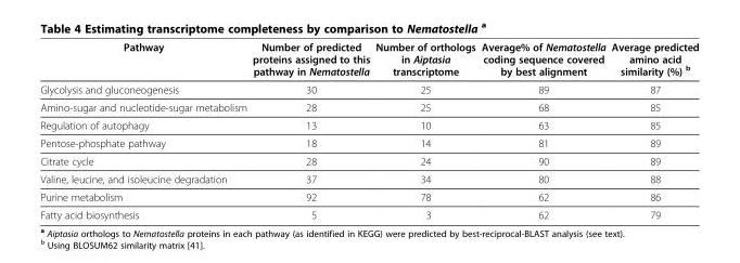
<table><thead><tr><td>Pathway</td><td>Number of predicted proteins assigned to this pathway in Nematostella</td><td>Number of orthologs in Aiptasia transcriptome</td><td>Average% of Nematostella coding sequence covered by best alignment</td><td>Average predicted amino acid similarity (%) <sup>b</sup></td></tr></thead><tbody><tr><td>Glycolysis and gluconeogenesis</td><td>30</td><td>25</td><td>89</td><td>87</td></tr><tr><td>Amino-sugar and nucleotide-sugar metabolism</td><td>28</td><td>25</td><td>68</td><td>85</td></tr><tr><td>Regulation of autophagy</td><td>13</td><td>10</td><td>63</td><td>85</td></tr><tr><td>Pentose-phosphate pathway</td><td>18</td><td>14</td><td>81</td><td>89</td></tr><tr><td>Citrate cycle</td><td>28</td><td>24</td><td>90</td><td>89</td></tr><tr><td>Valine, leucine, and isoleucine degradation</td><td>37</td><td>34</td><td>80</td><td>88</td></tr><tr><td>Purine metabolism</td><td>92</td><td>78</td><td>62</td><td>86</td></tr><tr><td>Fatty acid biosynthesis</td><td>5</td><td>3</td><td>62</td><td>79</td></tr></tbody></table>